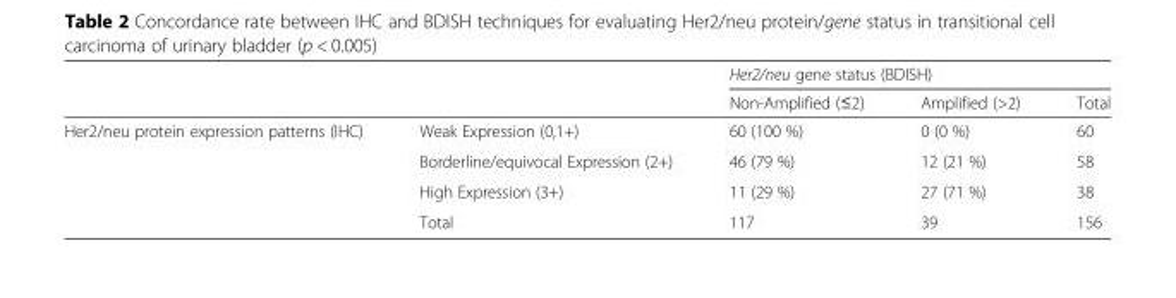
<table><thead><tr><td rowspan="2"></td><td rowspan="2"></td><td colspan="3">Her2/neu gene status (BDISH)</td></tr><tr><td>Non-Amplified (≤2)</td><td>Amplified (&gt;2)</td><td>Total</td></tr></thead><tbody><tr><td rowspan="4">Her2/neu protein expression patterns (IHC)</td><td>Weak Expression (0,1+)</td><td>60 (100 %)</td><td>0 (0 %)</td><td>60</td></tr><tr><td>Borderline/equivocal Expression (2+)</td><td>46 (79 %)</td><td>12 (21 %)</td><td>58</td></tr><tr><td>High Expression (3+)</td><td>11 (29 %)</td><td>27 (71 %)</td><td>38</td></tr><tr><td>Total</td><td>117</td><td>39</td><td>156</td></tr></tbody></table>